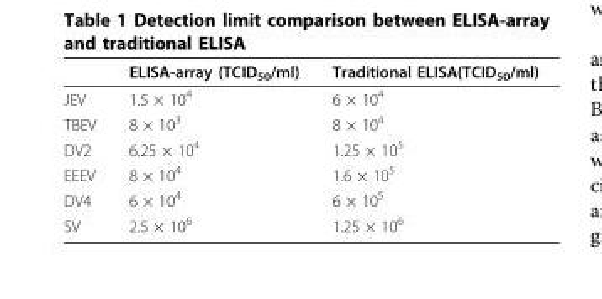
<table><thead><tr><td></td><td>ELISA-array (TCID<sub>50</sub>/ml)</td><td>Traditional ELISA(TCID<sub>50</sub>/ml)</td></tr></thead><tbody><tr><td>JEV</td><td>1.5 × 10<sup>4</sup></td><td>6 × 10<sup>4</sup></td></tr><tr><td>TBEV</td><td>8 × 10<sup>3</sup></td><td>8 × 10<sup>4</sup></td></tr><tr><td>DV2</td><td>6.25 × 10<sup>4</sup></td><td>1.25 × 10<sup>5</sup></td></tr><tr><td>EEEV</td><td>8 × 10<sup>4</sup></td><td>1.6 × 10<sup>5</sup></td></tr><tr><td>DV4</td><td>6 × 10<sup>4</sup></td><td>6 × 10<sup>5</sup></td></tr><tr><td>SV</td><td>2.5 × 10<sup>6</sup></td><td>1.25 × 10<sup>6</sup></td></tr></tbody></table>